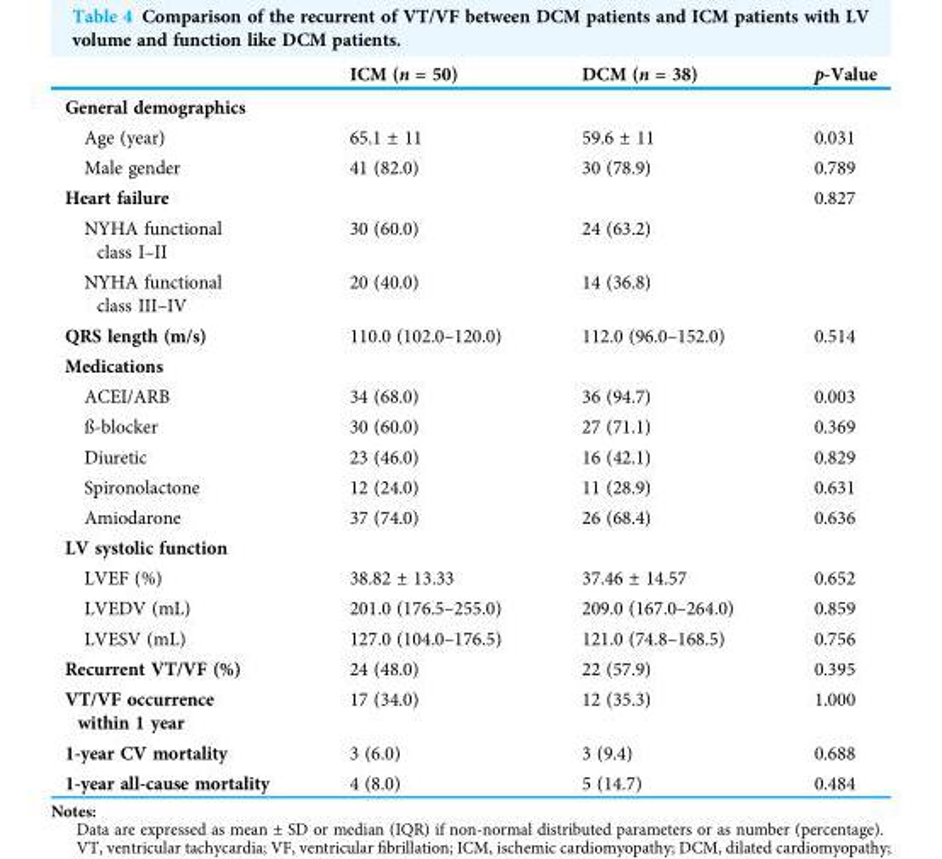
<table><thead><tr><td></td><td>ICM (n = 50)</td><td>DCM (n = 38)</td><td>p-Value</td></tr></thead><tbody><tr><td colspan="4">General demographics</td></tr><tr><td>Age (year)</td><td>65.1 ± 11</td><td>59.6 ± 11</td><td>0.031</td></tr><tr><td>Male gender</td><td>41 (82.0)</td><td>30 (78.9)</td><td>0.789</td></tr><tr><td>Heart failure</td><td></td><td></td><td>0.827</td></tr><tr><td>NYHA functional class I–II</td><td>30 (60.0)</td><td>24 (63.2)</td><td></td></tr><tr><td>NYHA functional class III–IV</td><td>20 (40.0)</td><td>14 (36.8)</td><td></td></tr><tr><td>QRS length (m/s)</td><td>110.0 (102.0–120.0)</td><td>112.0 (96.0–152.0)</td><td>0.514</td></tr><tr><td colspan="4">Medications</td></tr><tr><td>ACEI/ARB</td><td>34 (68.0)</td><td>36 (94.7)</td><td>0.003</td></tr><tr><td>ß-blocker</td><td>30 (60.0)</td><td>27 (71.1)</td><td>0.369</td></tr><tr><td>Diuretic</td><td>23 (46.0)</td><td>16 (42.1)</td><td>0.829</td></tr><tr><td>Spironolactone</td><td>12 (24.0)</td><td>11 (28.9)</td><td>0.631</td></tr><tr><td>Amiodarone</td><td>37 (74.0)</td><td>26 (68.4)</td><td>0.636</td></tr><tr><td colspan="4">LV systolic function</td></tr><tr><td>LVEF (%)</td><td>38.82 ± 13.33</td><td>37.46 ± 14.57</td><td>0.652</td></tr><tr><td>LVEDV (mL)</td><td>201.0 (176.5–255.0)</td><td>209.0 (167.0–264.0)</td><td>0.859</td></tr><tr><td>LVESV (mL)</td><td>127.0 (104.0–176.5)</td><td>121.0 (74.8–168.5)</td><td>0.756</td></tr><tr><td>Recurrent VT/VF (%)</td><td>24 (48.0)</td><td>22 (57.9)</td><td>0.395</td></tr><tr><td>VT/VF occurrence within 1 year</td><td>17 (34.0)</td><td>12 (35.3)</td><td>1.000</td></tr><tr><td>1-year CV mortality</td><td>3 (6.0)</td><td>3 (9.4)</td><td>0.688</td></tr><tr><td>1-year all-cause mortality</td><td>4 (8.0)</td><td>5 (14.7)</td><td>0.484</td></tr></tbody></table>